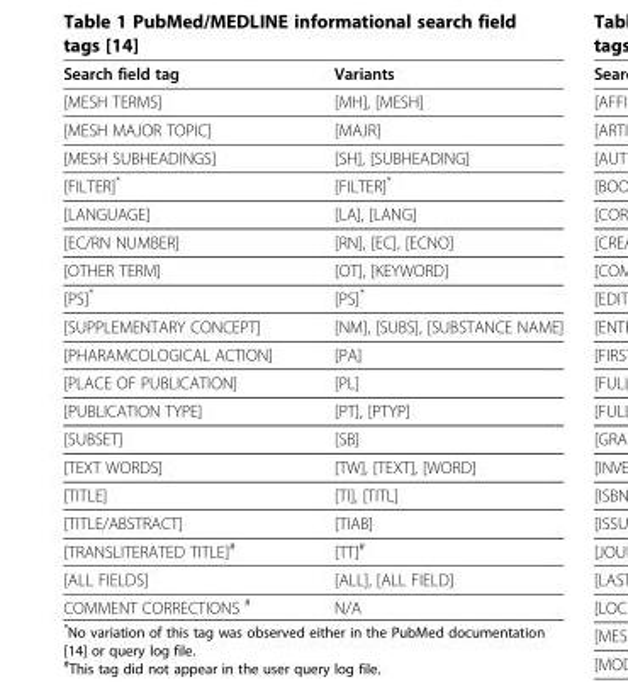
<table><thead><tr><td>Search field tag</td><td>Variants</td></tr></thead><tbody><tr><td>[MESH TERMS]</td><td>[MH], [MESH]</td></tr><tr><td>[MESH MAJOR TOPIC]</td><td>[MAJR]</td></tr><tr><td>[MESH SUBHEADINGS]</td><td>[SH], [SUBHEADING]</td></tr><tr><td>[FILTER]*</td><td>[FILTER]*</td></tr><tr><td>[LANGUAGE]</td><td>[LA], [LANG]</td></tr><tr><td>[EC/RN NUMBER]</td><td>[RN], [EC], [ECNO]</td></tr><tr><td>[OTHER TERM]</td><td>[OT], [KEYWORD]</td></tr><tr><td>[PS]*</td><td>[PS]*</td></tr><tr><td>[SUPPLEMENTARY CONCEPT]</td><td>[NM], [SUBS], [SUBSTANCE NAME]</td></tr><tr><td>[PHARAMCOLOGICAL ACTION]</td><td>[PA]</td></tr><tr><td>[PLACE OF PUBLICATION]</td><td>[PL]</td></tr><tr><td>[PUBLICATION TYPE]</td><td>[PT], [PTYP]</td></tr><tr><td>[SUBSET]</td><td>[SB]</td></tr><tr><td>[TEXT WORDS]</td><td>[TW], [TEXT], [WORD]</td></tr><tr><td>[TITLE]</td><td>[TI], [TITL]</td></tr><tr><td>[TITLE/ABSTRACT]</td><td>[TIAB]</td></tr><tr><td>[TRANSLITERATED TITLE]<sup>#</sup></td><td>[TT]<sup>#</sup></td></tr><tr><td>[ALL FIELDS]</td><td>[ALL], [ALL FIELD]</td></tr><tr><td>COMMENT CORRECTIONS <sup>#</sup></td><td>N/A</td></tr></tbody></table>